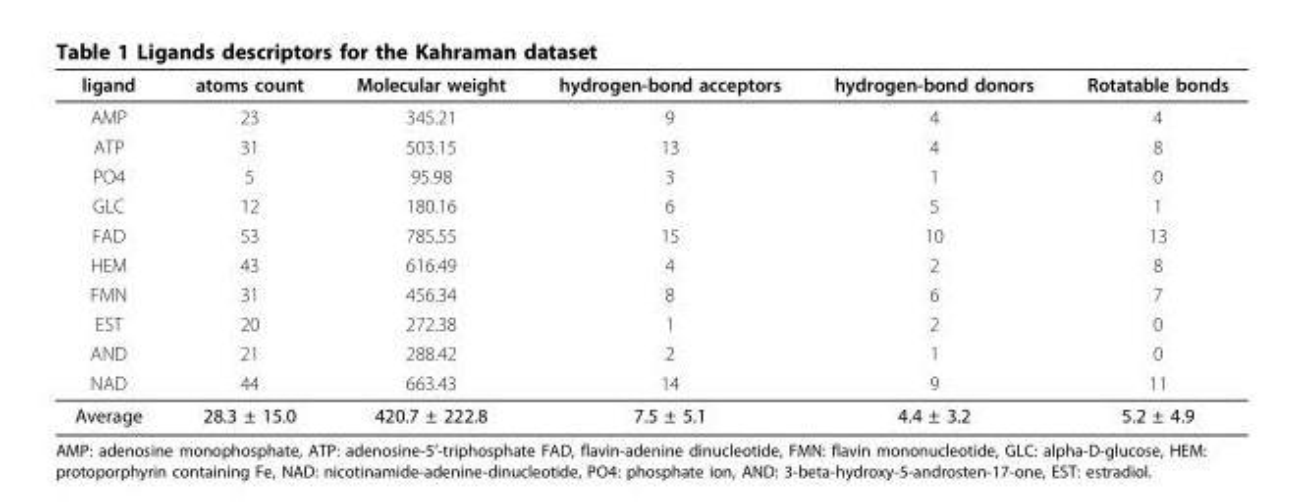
<table><thead><tr><td>ligand</td><td>atoms count</td><td>Molecular weight</td><td>hydrogen-bond acceptors</td><td>hydrogen-bond donors</td><td>Rotatable bonds</td></tr></thead><tbody><tr><td>AMP</td><td>23</td><td>345.21</td><td>9</td><td>4</td><td>4</td></tr><tr><td>ATP</td><td>31</td><td>503.15</td><td>13</td><td>4</td><td>8</td></tr><tr><td>PO4</td><td>5</td><td>95.98</td><td>3</td><td>1</td><td>0</td></tr><tr><td>GLC</td><td>12</td><td>180.16</td><td>6</td><td>5</td><td>1</td></tr><tr><td>FAD</td><td>53</td><td>785.55</td><td>15</td><td>10</td><td>13</td></tr><tr><td>HEM</td><td>43</td><td>616.49</td><td>4</td><td>2</td><td>8</td></tr><tr><td>FMN</td><td>31</td><td>456.34</td><td>8</td><td>6</td><td>7</td></tr><tr><td>EST</td><td>20</td><td>272.38</td><td>1</td><td>2</td><td>0</td></tr><tr><td>AND</td><td>21</td><td>288.42</td><td>2</td><td>1</td><td>0</td></tr><tr><td>NAD</td><td>44</td><td>663.43</td><td>14</td><td>9</td><td>11</td></tr><tr><td>Average</td><td>28.3 ± 15.0</td><td>420.7 ± 222.8</td><td>7.5 ± 5.1</td><td>4.4 ± 3.2</td><td>5.2 ± 4.9</td></tr></tbody></table>